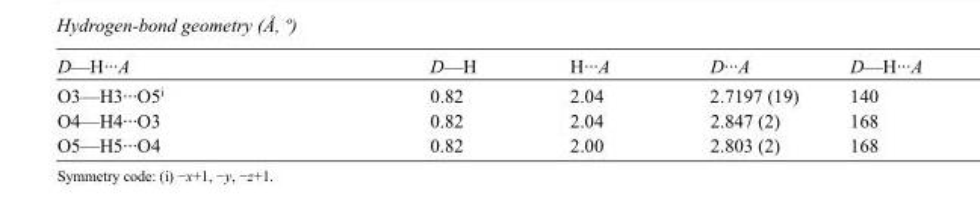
<table><tbody><tr><td>D—H···A</td><td>D—H</td><td>H···A</td><td>D···A</td><td>D—H···A</td></tr><tr><td>O3—H3···O5<sup>i</sup></td><td>0.82</td><td>2.04</td><td>2.7197 (19)</td><td>140</td></tr><tr><td>O4—H4···O3</td><td>0.82</td><td>2.04</td><td>2.847 (2)</td><td>168</td></tr><tr><td>O5—H5···O4</td><td>0.82</td><td>2.00</td><td>2.803 (2)</td><td>168</td></tr></tbody></table>